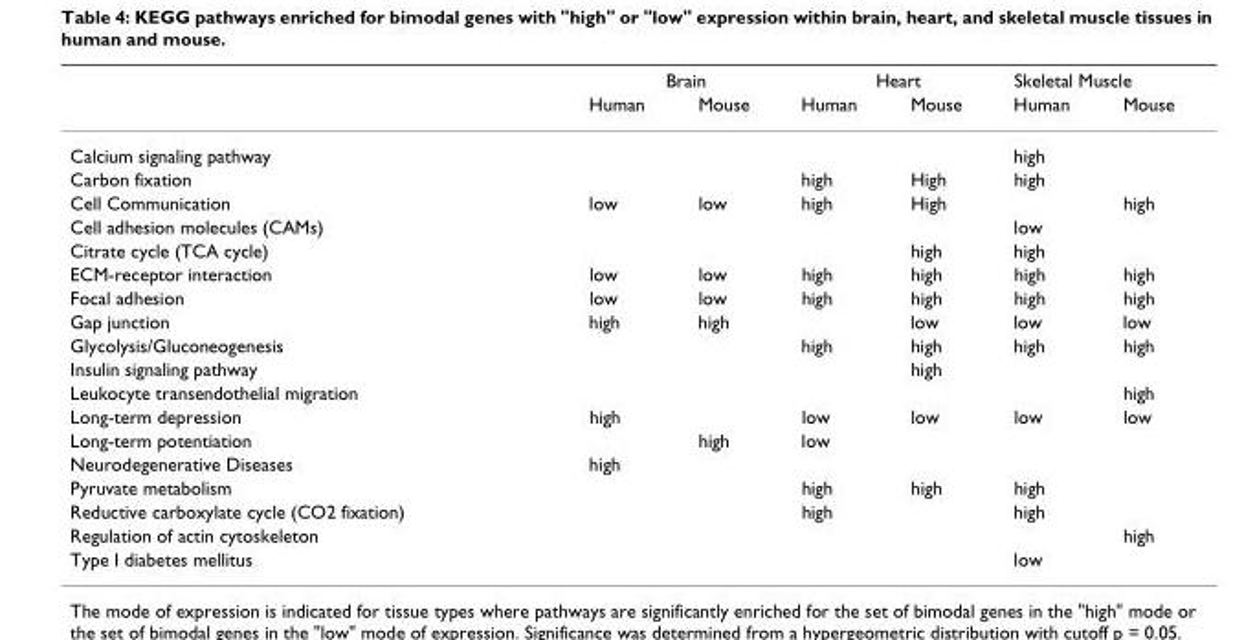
<table><thead><tr><td rowspan="2"></td><td colspan="2">Brain</td><td colspan="2">Heart</td><td colspan="2">Skeletal Muscle</td></tr><tr><td>Human</td><td>Mouse</td><td>Human</td><td>Mouse</td><td>Human</td><td>Mouse</td></tr></thead><tbody><tr><td>Calcium signaling pathway</td><td></td><td></td><td></td><td></td><td>high</td><td></td></tr><tr><td>Carbon fixation</td><td></td><td></td><td>high</td><td>High</td><td>high</td><td></td></tr><tr><td>Cell Communication</td><td>low</td><td>low</td><td>high</td><td>High</td><td></td><td>high</td></tr><tr><td>Cell adhesion molecules (CAMs)</td><td></td><td></td><td></td><td></td><td>low</td><td></td></tr><tr><td>Citrate cycle (TCA cycle)</td><td></td><td></td><td></td><td>high</td><td>high</td><td></td></tr><tr><td>ECM-receptor interaction</td><td>low</td><td>low</td><td>high</td><td>high</td><td>high</td><td>high</td></tr><tr><td>Focal adhesion</td><td>low</td><td>low</td><td>high</td><td>high</td><td>high</td><td>high</td></tr><tr><td>Gap junction</td><td>high</td><td>high</td><td></td><td>low</td><td>low</td><td>low</td></tr><tr><td>Glycolysis/Gluconeogenesis</td><td></td><td></td><td>high</td><td>high</td><td>high</td><td>high</td></tr><tr><td>Insulin signaling pathway</td><td></td><td></td><td></td><td>high</td><td></td><td></td></tr><tr><td>Leukocyte transendothelial migration</td><td></td><td></td><td></td><td></td><td></td><td>high</td></tr><tr><td>Long-term depression</td><td>high</td><td></td><td>low</td><td>low</td><td>low</td><td>low</td></tr><tr><td>Long-term potentiation</td><td></td><td>high</td><td>low</td><td></td><td></td><td></td></tr><tr><td>Neurodegenerative Diseases</td><td>high</td><td></td><td></td><td></td><td></td><td></td></tr><tr><td>Pyruvate metabolism</td><td></td><td></td><td>high</td><td>high</td><td>high</td><td></td></tr><tr><td>Reductive carboxylate cycle (CO2 fixation)</td><td></td><td></td><td>high</td><td></td><td>high</td><td></td></tr><tr><td>Regulation of actin cytoskeleton</td><td></td><td></td><td></td><td></td><td></td><td>high</td></tr><tr><td>Type I diabetes mellitus</td><td></td><td></td><td></td><td></td><td>low</td><td></td></tr></tbody></table>